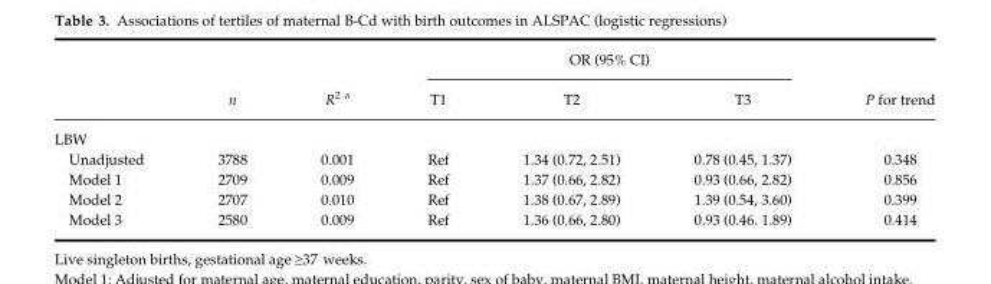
<table><thead><tr><td rowspan="2"></td><td rowspan="2">n</td><td rowspan="2">R<sup>2</sup> a</td><td colspan="3">OR (95% CI)</td><td rowspan="2">P for trend</td></tr><tr><td>T1</td><td>T2</td><td>T3</td></tr></thead><tbody><tr><td colspan="7">LBW</td></tr><tr><td>Unadjusted</td><td>3788</td><td>0.001</td><td>Ref</td><td>1.34 (0.72, 2.51)</td><td>0.78 (0.45, 1.37)</td><td>0.348</td></tr><tr><td>Model 1</td><td>2709</td><td>0.009</td><td>Ref</td><td>1.37 (0.66, 2.82)</td><td>0.93 (0.66, 2.82)</td><td>0.856</td></tr><tr><td>Model 2</td><td>2707</td><td>0.010</td><td>Ref</td><td>1.38 (0.67, 2.89)</td><td>1.39 (0.54, 3.60)</td><td>0.399</td></tr><tr><td>Model 3</td><td>2580</td><td>0.009</td><td>Ref</td><td>1.36 (0.66, 2.80)</td><td>0.93 (0.46. 1.89)</td><td>0.414</td></tr></tbody></table>